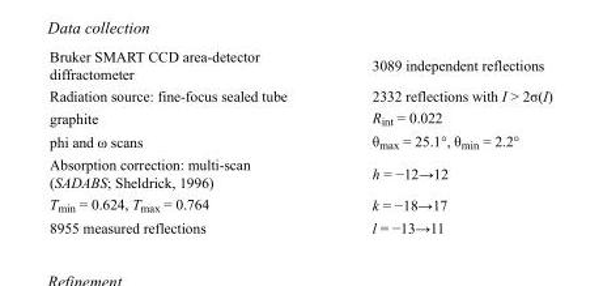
<table><tbody><tr><td>Bruker SMART CCD area-detector diffractometer</td><td>3089 independent reflections</td></tr><tr><td>Radiation source: fine-focus sealed tube</td><td>2332 reflections with I &gt; 2σ(I)</td></tr><tr><td>graphite</td><td>R<sub>int</sub> = 0.022</td></tr><tr><td>phi and ω scans</td><td>θ<sub>max</sub> = 25.1°, θ<sub>min</sub> = 2.2°</td></tr><tr><td>Absorption correction: multi-scan (SADABS; Sheldrick, 1996)</td><td>h = −12→12</td></tr><tr><td>T<sub>min</sub> = 0.624, T<sub>max</sub> = 0.764</td><td>k = −18→17</td></tr><tr><td>8955 measured reflections</td><td>l = −13→11</td></tr></tbody></table>